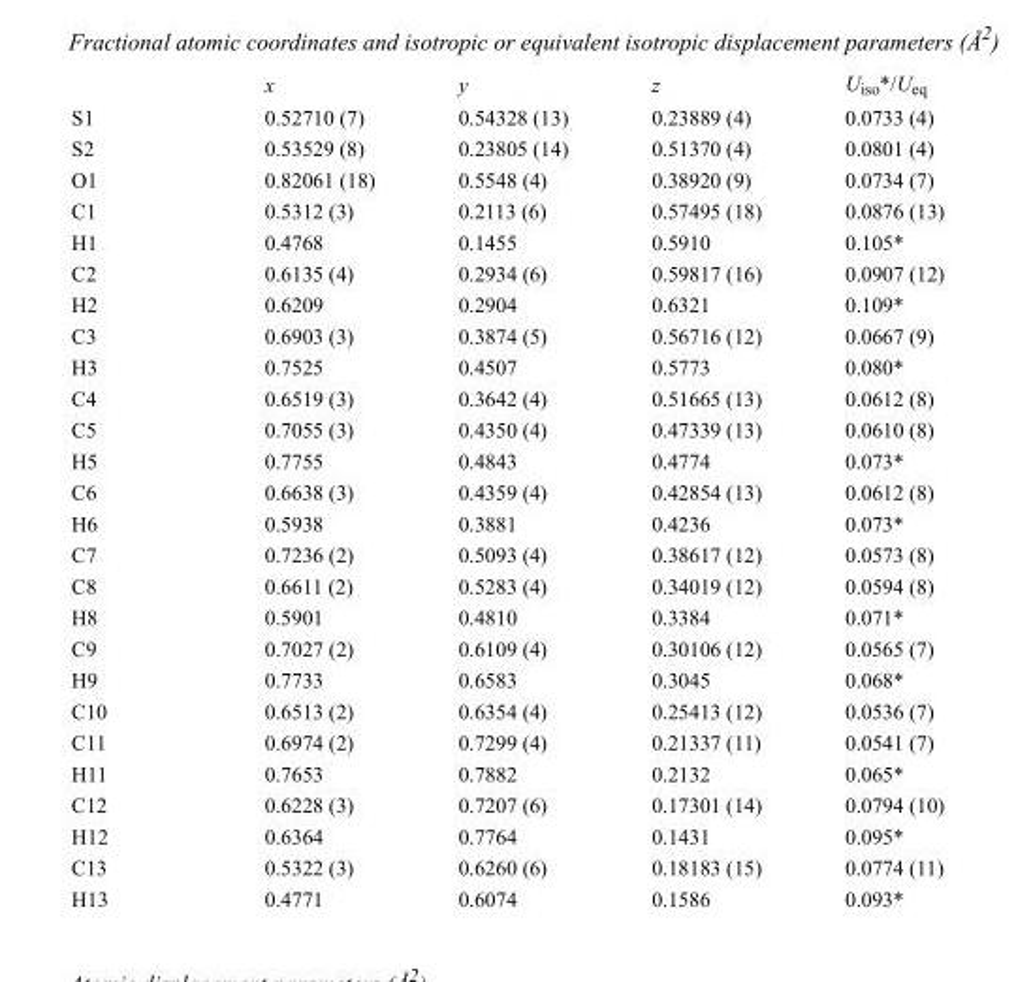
<table><thead><tr><td></td><td>x</td><td>y</td><td>z</td><td>U<sub>iso</sub>*/U<sub>eq</sub></td></tr></thead><tbody><tr><td>S1</td><td>0.52710 (7)</td><td>0.54328 (13)</td><td>0.23889 (4)</td><td>0.0733 (4)</td></tr><tr><td>S2</td><td>0.53529 (8)</td><td>0.23805 (14)</td><td>0.51370 (4)</td><td>0.0801 (4)</td></tr><tr><td>O1</td><td>0.82061 (18)</td><td>0.5548 (4)</td><td>0.38920 (9)</td><td>0.0734 (7)</td></tr><tr><td>C1</td><td>0.5312 (3)</td><td>0.2113 (6)</td><td>0.57495 (18)</td><td>0.0876 (13)</td></tr><tr><td>H1</td><td>0.4768</td><td>0.1455</td><td>0.5910</td><td>0.105*</td></tr><tr><td>C2</td><td>0.6135 (4)</td><td>0.2934 (6)</td><td>0.59817 (16)</td><td>0.0907 (12)</td></tr><tr><td>H2</td><td>0.6209</td><td>0.2904</td><td>0.6321</td><td>0.109*</td></tr><tr><td>C3</td><td>0.6903 (3)</td><td>0.3874 (5)</td><td>0.56716 (12)</td><td>0.0667 (9)</td></tr><tr><td>H3</td><td>0.7525</td><td>0.4507</td><td>0.5773</td><td>0.080*</td></tr><tr><td>C4</td><td>0.6519 (3)</td><td>0.3642 (4)</td><td>0.51665 (13)</td><td>0.0612 (8)</td></tr><tr><td>C5</td><td>0.7055 (3)</td><td>0.4350 (4)</td><td>0.47339 (13)</td><td>0.0610 (8)</td></tr><tr><td>H5</td><td>0.7755</td><td>0.4843</td><td>0.4774</td><td>0.073*</td></tr><tr><td>C6</td><td>0.6638 (3)</td><td>0.4359 (4)</td><td>0.42854 (13)</td><td>0.0612 (8)</td></tr><tr><td>H6</td><td>0.5938</td><td>0.3881</td><td>0.4236</td><td>0.073*</td></tr><tr><td>C7</td><td>0.7236 (2)</td><td>0.5093 (4)</td><td>0.38617 (12)</td><td>0.0573 (8)</td></tr><tr><td>C8</td><td>0.6611 (2)</td><td>0.5283 (4)</td><td>0.34019 (12)</td><td>0.0594 (8)</td></tr><tr><td>H8</td><td>0.5901</td><td>0.4810</td><td>0.3384</td><td>0.071*</td></tr><tr><td>C9</td><td>0.7027 (2)</td><td>0.6109 (4)</td><td>0.30106 (12)</td><td>0.0565 (7)</td></tr><tr><td>H9</td><td>0.7733</td><td>0.6583</td><td>0.3045</td><td>0.068*</td></tr><tr><td>C10</td><td>0.6513 (2)</td><td>0.6354 (4)</td><td>0.25413 (12)</td><td>0.0536 (7)</td></tr><tr><td>C11</td><td>0.6974 (2)</td><td>0.7299 (4)</td><td>0.21337 (11)</td><td>0.0541 (7)</td></tr><tr><td>H11</td><td>0.7653</td><td>0.7882</td><td>0.2132</td><td>0.065*</td></tr><tr><td>C12</td><td>0.6228 (3)</td><td>0.7207 (6)</td><td>0.17301 (14)</td><td>0.0794 (10)</td></tr><tr><td>H12</td><td>0.6364</td><td>0.7764</td><td>0.1431</td><td>0.095*</td></tr><tr><td>C13</td><td>0.5322 (3)</td><td>0.6260 (6)</td><td>0.18183 (15)</td><td>0.0774 (11)</td></tr><tr><td>H13</td><td>0.4771</td><td>0.6074</td><td>0.1586</td><td>0.093*</td></tr></tbody></table>